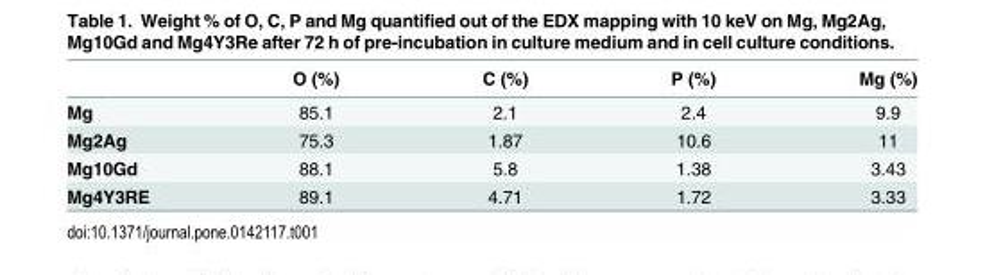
<table><thead><tr><td></td><td>O (%)</td><td>C (%)</td><td>P (%)</td><td>Mg (%)</td></tr></thead><tbody><tr><td>Mg</td><td>85.1</td><td>2.1</td><td>2.4</td><td>9.9</td></tr><tr><td>Mg2Ag</td><td>75.3</td><td>1.87</td><td>10.6</td><td>11</td></tr><tr><td>Mg10Gd</td><td>88.1</td><td>5.8</td><td>1.38</td><td>3.43</td></tr><tr><td>Mg4Y3RE</td><td>89.1</td><td>4.71</td><td>1.72</td><td>3.33</td></tr></tbody></table>